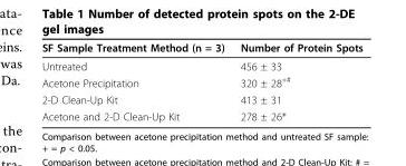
<table><thead><tr><td>SF Sample Treatment Method (n = 3)</td><td>Number of Protein Spots</td></tr></thead><tbody><tr><td>Untreated</td><td>456 ± 33</td></tr><tr><td>Acetone Precipitation</td><td>320 ± 28<sup>+#</sup></td></tr><tr><td>2-D Clean-Up Kit</td><td>413 ± 31</td></tr><tr><td>Acetone and 2-D Clean-Up Kit</td><td>278 ± 26*</td></tr></tbody></table>